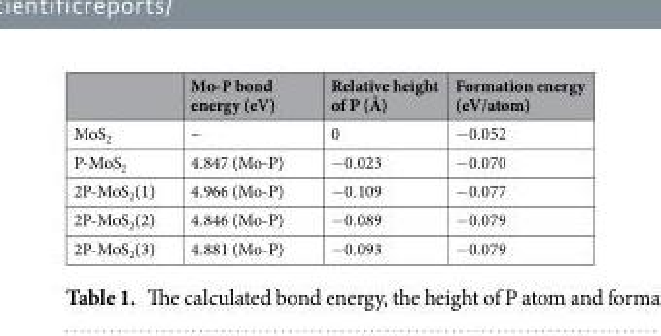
<table><thead><tr><td></td><td>Mo-P bond energy (eV)</td><td>Relative height of P (Å)</td><td>Formation energy (eV/atom)</td></tr></thead><tbody><tr><td>MoS<sub>2</sub></td><td>–</td><td>0</td><td>−0.052</td></tr><tr><td>P-MoS<sub>2</sub></td><td>4.847 (Mo-P)</td><td>−0.023</td><td>−0.070</td></tr><tr><td>2P-MoS<sub>2</sub>(1)</td><td>4.966 (Mo-P)</td><td>−0.109</td><td>−0.077</td></tr><tr><td>2P-MoS<sub>2</sub>(2)</td><td>4.846 (Mo-P)</td><td>−0.089</td><td>−0.079</td></tr><tr><td>2P-MoS<sub>2</sub>(3)</td><td>4.881 (Mo-P)</td><td>−0.093</td><td>−0.079</td></tr></tbody></table>